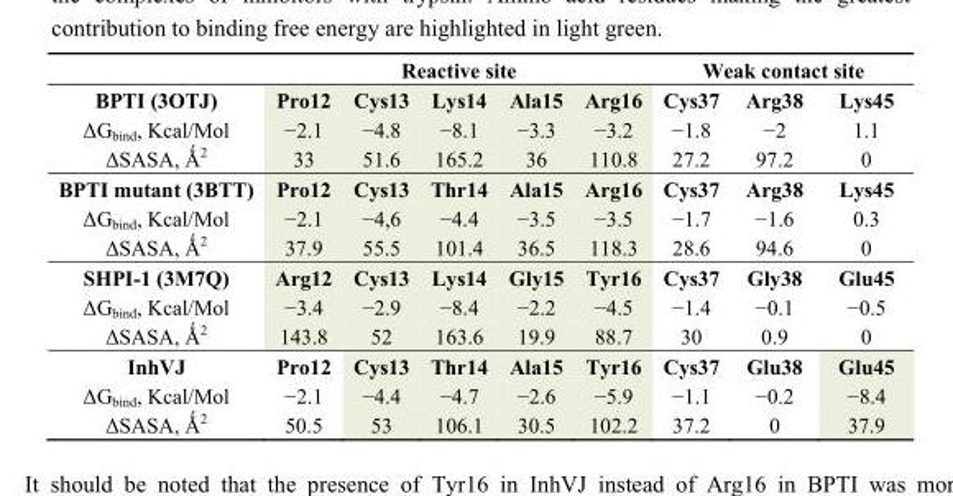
<table><thead><tr><td rowspan="2">BPTI (3OTJ)</td><td colspan="5">Reactive site</td><td colspan="3">Weak contact site</td></tr><tr><td>Pro12</td><td>Cys13</td><td>Lys14</td><td>Ala15</td><td>Arg16</td><td>Cys37</td><td>Arg38</td><td>Lys45</td></tr></thead><tbody><tr><td>ΔG<sub>bind</sub>, Kcal/Mol</td><td>−2.1</td><td>−4.8</td><td>−8.1</td><td>−3.3</td><td>−3.2</td><td>−1.8</td><td>−2</td><td>1.1</td></tr><tr><td>ΔSASA, Ǻ<sup>2</sup></td><td>33</td><td>51.6</td><td>165.2</td><td>36</td><td>110.8</td><td>27.2</td><td>97.2</td><td>0</td></tr><tr><td>BPTI mutant (3BTT)</td><td>Pro12</td><td>Cys13</td><td>Thr14</td><td>Ala15</td><td>Arg16</td><td>Cys37</td><td>Arg38</td><td>Lys45</td></tr><tr><td>ΔG<sub>bind</sub>, Kcal/Mol</td><td>−2.1</td><td>−4,6</td><td>−4.4</td><td>−3.5</td><td>−3.5</td><td>−1.7</td><td>−1.6</td><td>0.3</td></tr><tr><td>ΔSASA, Ǻ<sup>2</sup></td><td>37.9</td><td>55.5</td><td>101.4</td><td>36.5</td><td>118.3</td><td>28.6</td><td>94.6</td><td>0</td></tr><tr><td>SHPI-1 (3M7Q)</td><td>Arg12</td><td>Cys13</td><td>Lys14</td><td>Gly15</td><td>Tyr16</td><td>Cys37</td><td>Gly38</td><td>Glu45</td></tr><tr><td>ΔG<sub>bind</sub>, Kcal/Mol</td><td>−3.4</td><td>−2.9</td><td>−8.4</td><td>−2.2</td><td>−4.5</td><td>−1.4</td><td>−0.1</td><td>−0.5</td></tr><tr><td>ΔSASA, Ǻ<sup>2</sup></td><td>143.8</td><td>52</td><td>163.6</td><td>19.9</td><td>88.7</td><td>30</td><td>0.9</td><td>0</td></tr><tr><td>InhVJ</td><td>Pro12</td><td>Cys13</td><td>Thr14</td><td>Ala15</td><td>Tyr16</td><td>Cys37</td><td>Glu38</td><td>Glu45</td></tr><tr><td>ΔG<sub>bind</sub>, Kcal/Mol</td><td>−2.1</td><td>−4.4</td><td>−4.7</td><td>−2.6</td><td>−5.9</td><td>−1.1</td><td>−0.2</td><td>−8.4</td></tr><tr><td>ΔSASA, Ǻ<sup>2</sup></td><td>50.5</td><td>53</td><td>106.1</td><td>30.5</td><td>102.2</td><td>37.2</td><td>0</td><td>37.9</td></tr></tbody></table>